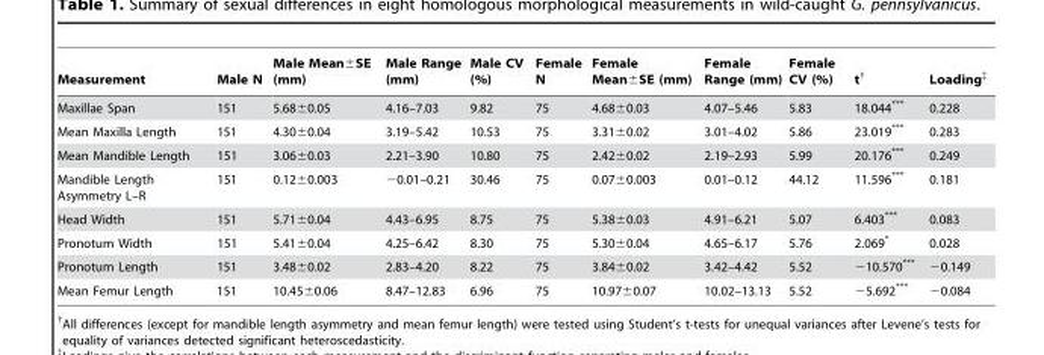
<table><thead><tr><td>Measurement</td><td>Male N</td><td>Male Mean±SE (mm)</td><td>Male Range (mm)</td><td>Male CV (%)</td><td>Female N</td><td>Female Mean±SE (mm)</td><td>Female Range (mm)</td><td>Female CV (%)</td><td>t†</td><td>Loading‡</td></tr></thead><tbody><tr><td>Maxillae Span</td><td>151</td><td>5.68±0.05</td><td>4.16–7.03</td><td>9.82</td><td>75</td><td>4.68±0.03</td><td>4.07–5.46</td><td>5.83</td><td>18.044***</td><td>0.228</td></tr><tr><td>Mean Maxilla Length</td><td>151</td><td>4.30±0.04</td><td>3.19–5.42</td><td>10.53</td><td>75</td><td>3.31±0.02</td><td>3.01–4.02</td><td>5.86</td><td>23.019***</td><td>0.283</td></tr><tr><td>Mean Mandible Length</td><td>151</td><td>3.06±0.03</td><td>2.21–3.90</td><td>10.80</td><td>75</td><td>2.42±0.02</td><td>2.19–2.93</td><td>5.99</td><td>20.176***</td><td>0.249</td></tr><tr><td>Mandible Length Asymmetry L–R</td><td>151</td><td>0.12±0.003</td><td>−0.01–0.21</td><td>30.46</td><td>75</td><td>0.07±0.003</td><td>0.01–0.12</td><td>44.12</td><td>11.596***</td><td>0.181</td></tr><tr><td>Head Width</td><td>151</td><td>5.71±0.04</td><td>4.43–6.95</td><td>8.75</td><td>75</td><td>5.38±0.03</td><td>4.91–6.21</td><td>5.07</td><td>6.403***</td><td>0.083</td></tr><tr><td>Pronotum Width</td><td>151</td><td>5.41±0.04</td><td>4.25–6.42</td><td>8.30</td><td>75</td><td>5.30±0.04</td><td>4.65–6.17</td><td>5.76</td><td>2.069*</td><td>0.028</td></tr><tr><td>Pronotum Length</td><td>151</td><td>3.48±0.02</td><td>2.83–4.20</td><td>8.22</td><td>75</td><td>3.84±0.02</td><td>3.42–4.42</td><td>5.52</td><td>−10.570***</td><td>−0.149</td></tr><tr><td>Mean Femur Length</td><td>151</td><td>10.45±0.06</td><td>8.47–12.83</td><td>6.96</td><td>75</td><td>10.97±0.07</td><td>10.02–13.13</td><td>5.52</td><td>−5.692***</td><td>−0.084</td></tr></tbody></table>